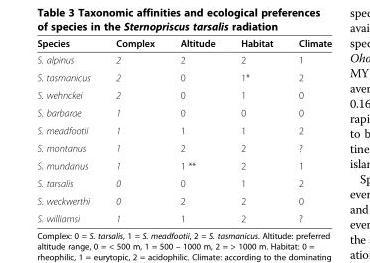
<table><thead><tr><td>Species</td><td>Complex</td><td>Altitude</td><td>Habitat</td><td>Climate</td></tr></thead><tbody><tr><td>S. alpinus</td><td>2</td><td>2</td><td>2</td><td>1</td></tr><tr><td>S. tasmanicus</td><td>2</td><td>0</td><td>1*</td><td>2</td></tr><tr><td>S. wehnckei</td><td>2</td><td>0</td><td>1</td><td>0</td></tr><tr><td>S. barbarae</td><td>1</td><td>0</td><td>0</td><td>0</td></tr><tr><td>S. meadfootii</td><td>1</td><td>1</td><td>1</td><td>2</td></tr><tr><td>S. montanus</td><td>1</td><td>2</td><td>2</td><td>?</td></tr><tr><td>S. mundanus</td><td>1</td><td>1 **</td><td>2</td><td>1</td></tr><tr><td>S. tarsalis</td><td>0</td><td>0</td><td>1</td><td>2</td></tr><tr><td>S. weckwerthi</td><td>0</td><td>2</td><td>2</td><td>0</td></tr><tr><td>S. williamsi</td><td>1</td><td>1</td><td>2</td><td>?</td></tr></tbody></table>